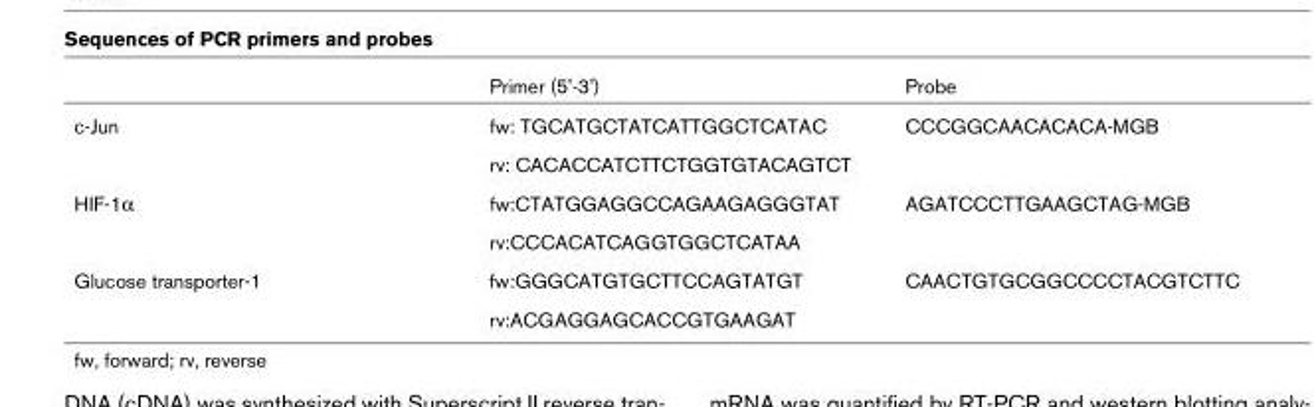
<table><thead><tr><td></td><td>Primer (5&#x27;-3&#x27;)</td><td>Probe</td></tr></thead><tbody><tr><td rowspan="2">c-Jun</td><td>fw: TGCATGCTATCATTGGCTCATAC</td><td>CCCGGCAACACACA-MGB</td></tr><tr><td>rv: CACACCATCTTCTGGTGTACAGTCT</td><td></td></tr><tr><td rowspan="2">HIF-1α</td><td>fw:CTATGGAGGCCAGAAGAGGGTAT</td><td>AGATCCCTTGAAGCTAG-MGB</td></tr><tr><td>rv:CCCACATCAGGTGGCTCATAA</td><td></td></tr><tr><td rowspan="2">Glucose transporter-1</td><td>fw:GGGCATGTGCTTCCAGTATGT</td><td>CAACTGTGCGGCCCCTACGTCTTC</td></tr><tr><td>rv:ACGAGGAGCACCGTGAAGAT</td><td></td></tr></tbody></table>